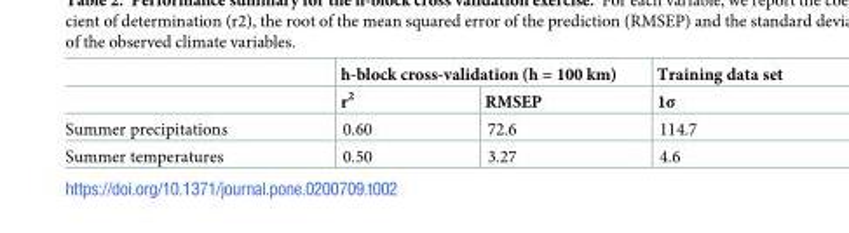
<table><thead><tr><td rowspan="2"></td><td colspan="2">h-block cross-validation (h = 100 km)</td><td rowspan="2">Training data set 1σ</td></tr><tr><td>r<sup>2</sup></td><td>RMSEP</td></tr></thead><tbody><tr><td>Summer precipitations</td><td>0.60</td><td>72.6</td><td>114.7</td></tr><tr><td>Summer temperatures</td><td>0.50</td><td>3.27</td><td>4.6</td></tr></tbody></table>